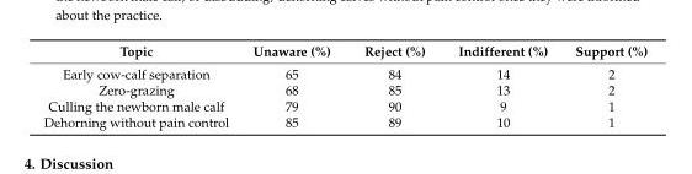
<table><thead><tr><td>Topic</td><td>Unaware (%)</td><td>Reject (%)</td><td>Indifferent (%)</td><td>Support (%)</td></tr></thead><tbody><tr><td>Early cow-calf separation</td><td>65</td><td>84</td><td>14</td><td>2</td></tr><tr><td>Zero-grazing</td><td>68</td><td>85</td><td>13</td><td>2</td></tr><tr><td>Culling the newborn male calf</td><td>79</td><td>90</td><td>9</td><td>1</td></tr><tr><td>Dehorning without pain control</td><td>85</td><td>89</td><td>10</td><td>1</td></tr></tbody></table>